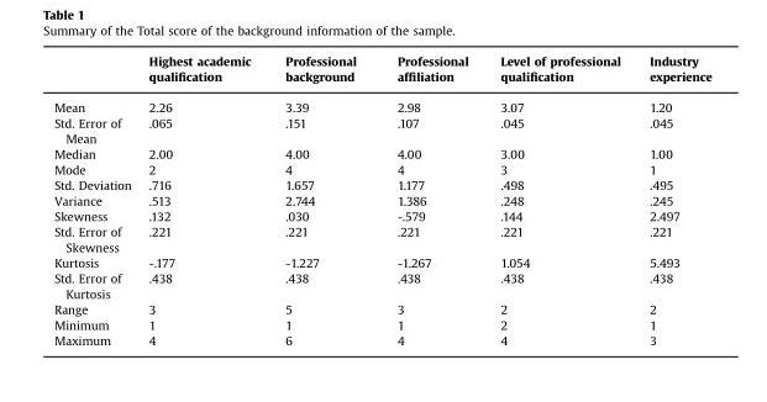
<table><thead><tr><td></td><td>Highest academic qualification</td><td>Professional background</td><td>Professional affiliation</td><td>Level of professional qualification</td><td>Industry experience</td></tr></thead><tbody><tr><td>Mean</td><td>2.26</td><td>3.39</td><td>2.98</td><td>3.07</td><td>1.20</td></tr><tr><td>Std. Error of Mean</td><td>.065</td><td>.151</td><td>.107</td><td>.045</td><td>.045</td></tr><tr><td>Median</td><td>2.00</td><td>4.00</td><td>4.00</td><td>3.00</td><td>1.00</td></tr><tr><td>Mode</td><td>2</td><td>4</td><td>4</td><td>3</td><td>1</td></tr><tr><td>Std. Deviation</td><td>.716</td><td>1.657</td><td>1.177</td><td>.498</td><td>.495</td></tr><tr><td>Variance</td><td>.513</td><td>2.744</td><td>1.386</td><td>.248</td><td>.245</td></tr><tr><td>Skewness</td><td>.132</td><td>.030</td><td>-.579</td><td>.144</td><td>2.497</td></tr><tr><td>Std. Error of Skewness</td><td>.221</td><td>.221</td><td>.221</td><td>.221</td><td>.221</td></tr><tr><td>Kurtosis</td><td>-.177</td><td>-1.227</td><td>-1.267</td><td>1.054</td><td>5.493</td></tr><tr><td>Std. Error of Kurtosis</td><td>.438</td><td>.438</td><td>.438</td><td>.438</td><td>.438</td></tr><tr><td>Range</td><td>3</td><td>5</td><td>3</td><td>2</td><td>2</td></tr><tr><td>Minimum</td><td>1</td><td>1</td><td>1</td><td>2</td><td>1</td></tr><tr><td>Maximum</td><td>4</td><td>6</td><td>4</td><td>4</td><td>3</td></tr></tbody></table>